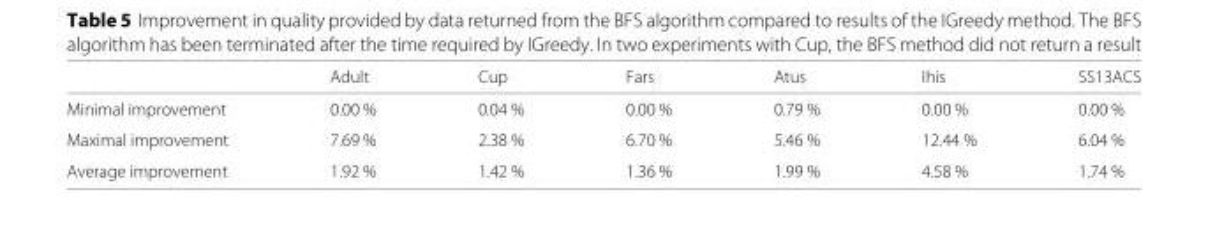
<table><thead><tr><td></td><td>Adult</td><td>Cup</td><td>Fars</td><td>Atus</td><td>Ihis</td><td>SS13ACS</td></tr></thead><tbody><tr><td>Minimal improvement</td><td>0.00 %</td><td>0.04 %</td><td>0.00 %</td><td>0.79 %</td><td>0.00 %</td><td>0.00 %</td></tr><tr><td>Maximal improvement</td><td>7.69 %</td><td>2.38 %</td><td>6.70 %</td><td>5.46 %</td><td>12.44 %</td><td>6.04 %</td></tr><tr><td>Average improvement</td><td>1.92 %</td><td>1.42 %</td><td>1.36 %</td><td>1.99 %</td><td>4.58 %</td><td>1.74 %</td></tr></tbody></table>